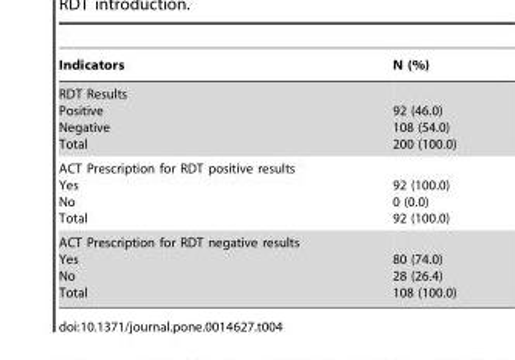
<table><thead><tr><td>Indicators</td><td>N (%)</td></tr></thead><tbody><tr><td>RDT Results Positive Negative Total</td><td>92 (46.0) 108 (54.0) 200 (100.0)</td></tr><tr><td>ACT Prescription for RDT positive results Yes No Total</td><td>92 (100.0) 0 (0.0) 92 (100.0)</td></tr><tr><td>ACT Prescription for RDT negative results Yes No Total</td><td>80 (74.0) 28 (26.4) 108 (100.0)</td></tr></tbody></table>